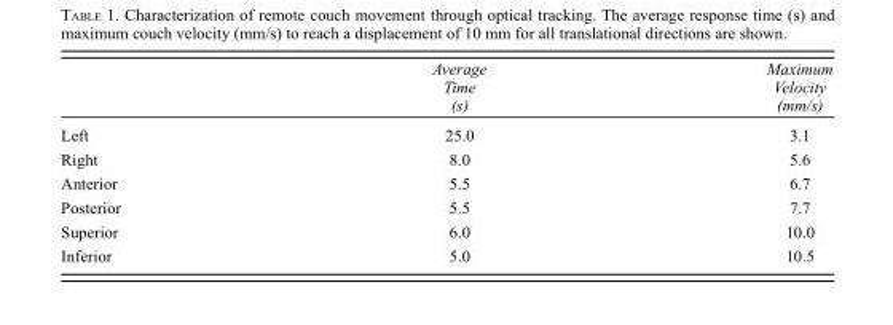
<table><thead><tr><td></td><td>Average Time (s)</td><td>Maximum Velocity (mm/s)</td></tr></thead><tbody><tr><td>Left</td><td>25.0</td><td>3.1</td></tr><tr><td>Right</td><td>8.0</td><td>5.6</td></tr><tr><td>Anterior</td><td>5.5</td><td>6.7</td></tr><tr><td>Posterior</td><td>5.5</td><td>7.7</td></tr><tr><td>Superior</td><td>6.0</td><td>10.0</td></tr><tr><td>Inferior</td><td>5.0</td><td>10.5</td></tr></tbody></table>